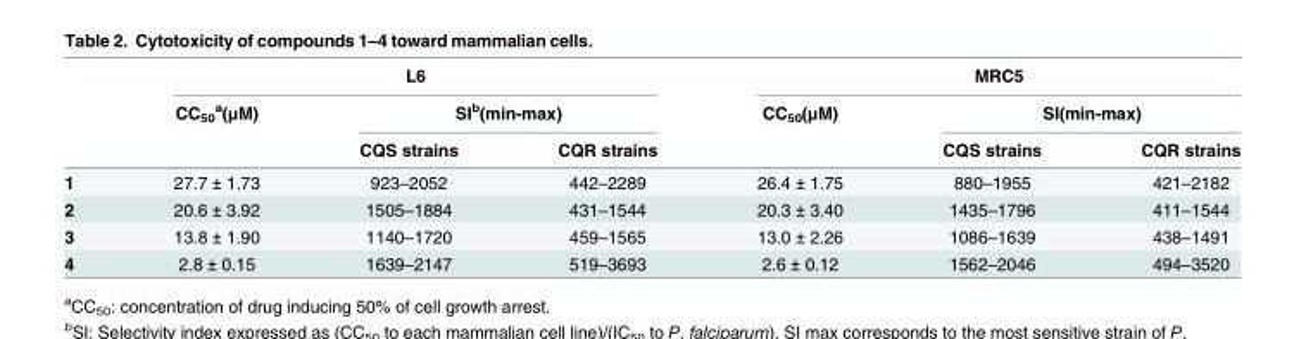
<table><thead><tr><td rowspan="3"></td><td colspan="3">L6</td><td colspan="3">MRC5</td></tr><tr><td rowspan="2">CC<sub>50</sub> <sup>a</sup>(μM)</td><td colspan="2">SI<sup>b</sup>(min-max)</td><td rowspan="2">CC<sub>50</sub>(μM)</td><td colspan="2">SI(min-max)</td></tr><tr><td>CQS strains</td><td>CQR strains</td><td>CQS strains</td><td>CQR strains</td></tr></thead><tbody><tr><td>1</td><td>27.7 ± 1.73</td><td>923–2052</td><td>442–2289</td><td>26.4 ± 1.75</td><td>880–1955</td><td>421–2182</td></tr><tr><td>2</td><td>20.6 ± 3.92</td><td>1505–1884</td><td>431–1544</td><td>20.3 ± 3.40</td><td>1435–1796</td><td>411–1544</td></tr><tr><td>3</td><td>13.8 ± 1.90</td><td>1140–1720</td><td>459–1565</td><td>13.0 ± 2.26</td><td>1086–1639</td><td>438–1491</td></tr><tr><td>4</td><td>2.8 ± 0.15</td><td>1639–2147</td><td>519–3693</td><td>2.6 ± 0.12</td><td>1562–2046</td><td>494–3520</td></tr></tbody></table>